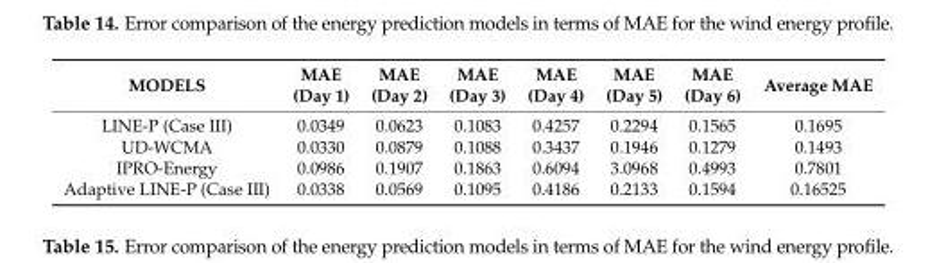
<table><thead><tr><td>MODELS</td><td>MAE (Day 1)</td><td>MAE (Day 2)</td><td>MAE (Day 3)</td><td>MAE (Day 4)</td><td>MAE (Day 5)</td><td>MAE (Day 6)</td><td>Average MAE</td></tr></thead><tbody><tr><td>LINE-P (Case III)</td><td>0.0349</td><td>0.0623</td><td>0.1083</td><td>0.4257</td><td>0.2294</td><td>0.1565</td><td>0.1695</td></tr><tr><td>UD-WCMA</td><td>0.0330</td><td>0.0879</td><td>0.1088</td><td>0.3437</td><td>0.1946</td><td>0.1279</td><td>0.1493</td></tr><tr><td>IPRO-Energy</td><td>0.0986</td><td>0.1907</td><td>0.1863</td><td>0.6094</td><td>3.0968</td><td>0.4993</td><td>0.7801</td></tr><tr><td>Adaptive LINE-P (Case III)</td><td>0.0338</td><td>0.0569</td><td>0.1095</td><td>0.4186</td><td>0.2133</td><td>0.1594</td><td>0.16525</td></tr></tbody></table>